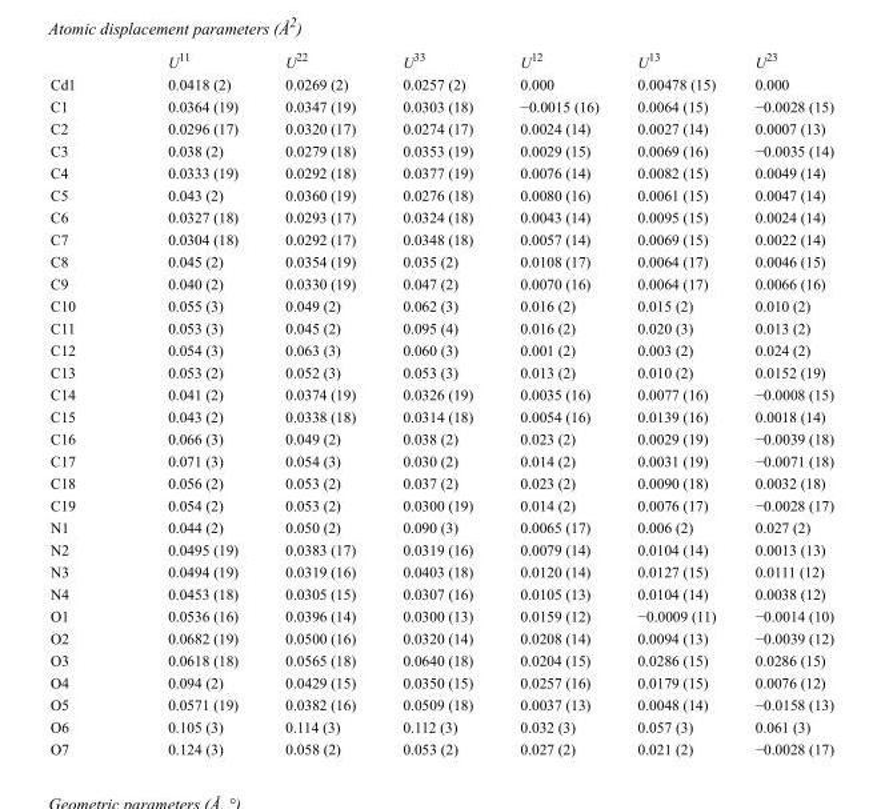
<table><thead><tr><td></td><td>U<sup>11</sup></td><td>U<sup>22</sup></td><td>U<sup>33</sup></td><td>U<sup>12</sup></td><td>U<sup>13</sup></td><td>U<sup>23</sup></td></tr></thead><tbody><tr><td>Cd1</td><td>0.0418 (2)</td><td>0.0269 (2)</td><td>0.0257 (2)</td><td>0.000</td><td>0.00478 (15)</td><td>0.000</td></tr><tr><td>C1</td><td>0.0364 (19)</td><td>0.0347 (19)</td><td>0.0303 (18)</td><td>−0.0015 (16)</td><td>0.0064 (15)</td><td>−0.0028 (15)</td></tr><tr><td>C2</td><td>0.0296 (17)</td><td>0.0320 (17)</td><td>0.0274 (17)</td><td>0.0024 (14)</td><td>0.0027 (14)</td><td>0.0007 (13)</td></tr><tr><td>C3</td><td>0.038 (2)</td><td>0.0279 (18)</td><td>0.0353 (19)</td><td>0.0029 (15)</td><td>0.0069 (16)</td><td>−0.0035 (14)</td></tr><tr><td>C4</td><td>0.0333 (19)</td><td>0.0292 (18)</td><td>0.0377 (19)</td><td>0.0076 (14)</td><td>0.0082 (15)</td><td>0.0049 (14)</td></tr><tr><td>C5</td><td>0.043 (2)</td><td>0.0360 (19)</td><td>0.0276 (18)</td><td>0.0080 (16)</td><td>0.0061 (15)</td><td>0.0047 (14)</td></tr><tr><td>C6</td><td>0.0327 (18)</td><td>0.0293 (17)</td><td>0.0324 (18)</td><td>0.0043 (14)</td><td>0.0095 (15)</td><td>0.0024 (14)</td></tr><tr><td>C7</td><td>0.0304 (18)</td><td>0.0292 (17)</td><td>0.0348 (18)</td><td>0.0057 (14)</td><td>0.0069 (15)</td><td>0.0022 (14)</td></tr><tr><td>C8</td><td>0.045 (2)</td><td>0.0354 (19)</td><td>0.035 (2)</td><td>0.0108 (17)</td><td>0.0064 (17)</td><td>0.0046 (15)</td></tr><tr><td>C9</td><td>0.040 (2)</td><td>0.0330 (19)</td><td>0.047 (2)</td><td>0.0070 (16)</td><td>0.0064 (17)</td><td>0.0066 (16)</td></tr><tr><td>C10</td><td>0.055 (3)</td><td>0.049 (2)</td><td>0.062 (3)</td><td>0.016 (2)</td><td>0.015 (2)</td><td>0.010 (2)</td></tr><tr><td>C11</td><td>0.053 (3)</td><td>0.045 (2)</td><td>0.095 (4)</td><td>0.016 (2)</td><td>0.020 (3)</td><td>0.013 (2)</td></tr><tr><td>C12</td><td>0.054 (3)</td><td>0.063 (3)</td><td>0.060 (3)</td><td>0.001 (2)</td><td>0.003 (2)</td><td>0.024 (2)</td></tr><tr><td>C13</td><td>0.053 (2)</td><td>0.052 (3)</td><td>0.053 (3)</td><td>0.013 (2)</td><td>0.010 (2)</td><td>0.0152 (19)</td></tr><tr><td>C14</td><td>0.041 (2)</td><td>0.0374 (19)</td><td>0.0326 (19)</td><td>0.0035 (16)</td><td>0.0077 (16)</td><td>−0.0008 (15)</td></tr><tr><td>C15</td><td>0.043 (2)</td><td>0.0338 (18)</td><td>0.0314 (18)</td><td>0.0054 (16)</td><td>0.0139 (16)</td><td>0.0018 (14)</td></tr><tr><td>C16</td><td>0.066 (3)</td><td>0.049 (2)</td><td>0.038 (2)</td><td>0.023 (2)</td><td>0.0029 (19)</td><td>−0.0039 (18)</td></tr><tr><td>C17</td><td>0.071 (3)</td><td>0.054 (3)</td><td>0.030 (2)</td><td>0.014 (2)</td><td>0.0031 (19)</td><td>−0.0071 (18)</td></tr><tr><td>C18</td><td>0.056 (2)</td><td>0.053 (2)</td><td>0.037 (2)</td><td>0.023 (2)</td><td>0.0090 (18)</td><td>0.0032 (18)</td></tr><tr><td>C19</td><td>0.054 (2)</td><td>0.053 (2)</td><td>0.0300 (19)</td><td>0.014 (2)</td><td>0.0076 (17)</td><td>−0.0028 (17)</td></tr><tr><td>N1</td><td>0.044 (2)</td><td>0.050 (2)</td><td>0.090 (3)</td><td>0.0065 (17)</td><td>0.006 (2)</td><td>0.027 (2)</td></tr><tr><td>N2</td><td>0.0495 (19)</td><td>0.0383 (17)</td><td>0.0319 (16)</td><td>0.0079 (14)</td><td>0.0104 (14)</td><td>0.0013 (13)</td></tr><tr><td>N3</td><td>0.0494 (19)</td><td>0.0319 (16)</td><td>0.0403 (18)</td><td>0.0120 (14)</td><td>0.0127 (15)</td><td>0.0111 (12)</td></tr><tr><td>N4</td><td>0.0453 (18)</td><td>0.0305 (15)</td><td>0.0307 (16)</td><td>0.0105 (13)</td><td>0.0104 (14)</td><td>0.0038 (12)</td></tr><tr><td>O1</td><td>0.0536 (16)</td><td>0.0396 (14)</td><td>0.0300 (13)</td><td>0.0159 (12)</td><td>−0.0009 (11)</td><td>−0.0014 (10)</td></tr><tr><td>O2</td><td>0.0682 (19)</td><td>0.0500 (16)</td><td>0.0320 (14)</td><td>0.0208 (14)</td><td>0.0094 (13)</td><td>−0.0039 (12)</td></tr><tr><td>O3</td><td>0.0618 (18)</td><td>0.0565 (18)</td><td>0.0640 (18)</td><td>0.0204 (15)</td><td>0.0286 (15)</td><td>0.0286 (15)</td></tr><tr><td>O4</td><td>0.094 (2)</td><td>0.0429 (15)</td><td>0.0350 (15)</td><td>0.0257 (16)</td><td>0.0179 (15)</td><td>0.0076 (12)</td></tr><tr><td>O5</td><td>0.0571 (19)</td><td>0.0382 (16)</td><td>0.0509 (18)</td><td>0.0037 (13)</td><td>0.0048 (14)</td><td>−0.0158 (13)</td></tr><tr><td>O6</td><td>0.105 (3)</td><td>0.114 (3)</td><td>0.112 (3)</td><td>0.032 (3)</td><td>0.057 (3)</td><td>0.061 (3)</td></tr><tr><td>O7</td><td>0.124 (3)</td><td>0.058 (2)</td><td>0.053 (2)</td><td>0.027 (2)</td><td>0.021 (2)</td><td>−0.0028 (17)</td></tr></tbody></table>